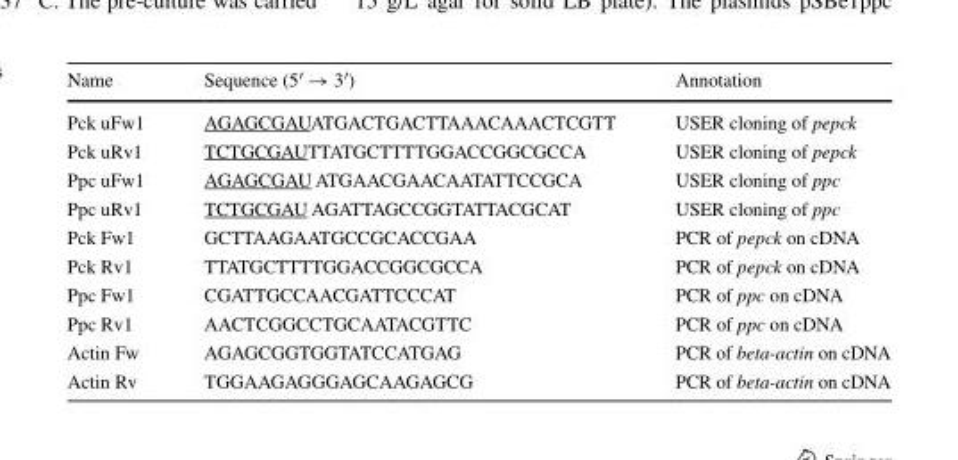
<table><thead><tr><td>Name</td><td>Sequence (5′ → 3′)</td><td>Annotation</td></tr></thead><tbody><tr><td>Pck uFw1</td><td>AGAGCGAUATGACTGACTTAAACAAACTCGTT</td><td>USER cloning of pepck</td></tr><tr><td>Pck uRv1</td><td>TCTGCGAUTTATGCTTTTGGACCGGCGCCA</td><td>USER cloning of pepck</td></tr><tr><td>Ppc uFw1</td><td>AGAGCGAU ATGAACGAACAATATTCCGCA</td><td>USER cloning of ppc</td></tr><tr><td>Ppc uRv1</td><td>TCTGCGAU AGATTAGCCGGTATTACGCAT</td><td>USER cloning of ppc</td></tr><tr><td>Pck Fw1</td><td>GCTTAAGAATGCCGCACCGAA</td><td>PCR of pepck on cDNA</td></tr><tr><td>Pck Rv1</td><td>TTATGCTTTTGGACCGGCGCCA</td><td>PCR of pepck on cDNA</td></tr><tr><td>Ppc Fw1</td><td>CGATTGCCAACGATTCCCAT</td><td>PCR of ppc on cDNA</td></tr><tr><td>Ppc Rv1</td><td>AACTCGGCCTGCAATACGTTC</td><td>PCR of ppc on cDNA</td></tr><tr><td>Actin Fw</td><td>AGAGCGGTGGTATCCATGAG</td><td>PCR of beta-actin on cDNA</td></tr><tr><td>Actin Rv</td><td>TGGAAGAGGGAGCAAGAGCG</td><td>PCR of beta-actin on cDNA</td></tr></tbody></table>